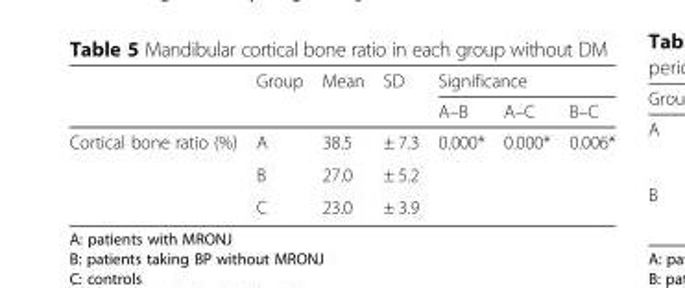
<table><thead><tr><td rowspan="2"></td><td rowspan="2">Group</td><td rowspan="2">Mean</td><td rowspan="2">SD</td><td colspan="3">Significance</td></tr><tr><td>A–B</td><td>A–C</td><td>B–C</td></tr></thead><tbody><tr><td rowspan="3">Cortical bone ratio (%)</td><td>A</td><td>38.5</td><td>± 7.3</td><td rowspan="3">0.000*</td><td rowspan="3">0.000*</td><td rowspan="3">0.006*</td></tr><tr><td>B</td><td>27.0</td><td>± 5.2</td></tr><tr><td>C</td><td>23.0</td><td>± 3.9</td></tr></tbody></table>